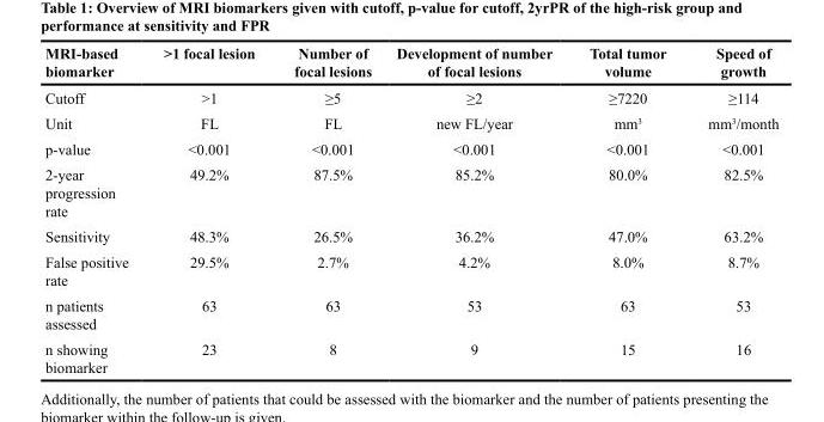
<table><thead><tr><td>MRI-based biomarker</td><td>&gt;1 focal lesion</td><td>Number of focal lesions</td><td>Development of number of focal lesions</td><td>Total tumor volume</td><td>Speed of growth</td></tr></thead><tbody><tr><td>Cutoff</td><td>&gt;1</td><td>≥5</td><td>≥2</td><td>≥7220</td><td>≥114</td></tr><tr><td>Unit</td><td>FL</td><td>FL</td><td>new FL/year</td><td>mm<sup>3</sup></td><td>mm<sup>3</sup>/month</td></tr><tr><td>p-value</td><td>&lt;0.001</td><td>&lt;0.001</td><td>&lt;0.001</td><td>&lt;0.001</td><td>&lt;0.001</td></tr><tr><td>2-year progression rate</td><td>49.2%</td><td>87.5%</td><td>85.2%</td><td>80.0%</td><td>82.5%</td></tr><tr><td>Sensitivity</td><td>48.3%</td><td>26.5%</td><td>36.2%</td><td>47.0%</td><td>63.2%</td></tr><tr><td>False positive rate</td><td>29.5%</td><td>2.7%</td><td>4.2%</td><td>8.0%</td><td>8.7%</td></tr><tr><td>n patients assessed</td><td>63</td><td>63</td><td>53</td><td>63</td><td>53</td></tr><tr><td>n showing biomarker</td><td>23</td><td>8</td><td>9</td><td>15</td><td>16</td></tr></tbody></table>